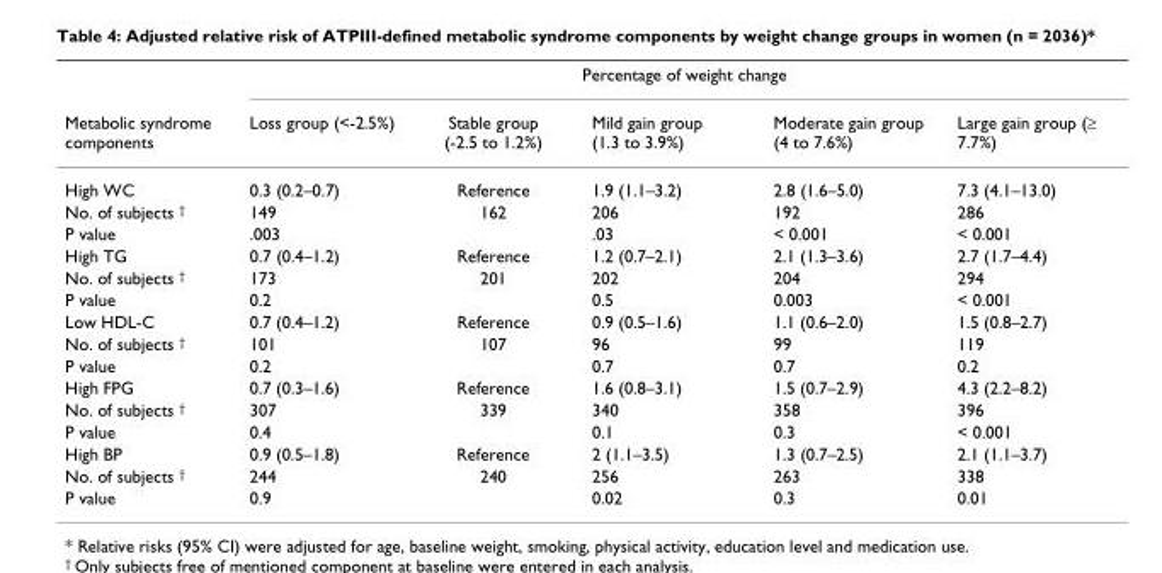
<table><thead><tr><td rowspan="2">Metabolic syndrome components</td><td colspan="5">Percentage of weight change</td></tr><tr><td>Loss group (&lt;-2.5%)</td><td>Stable group (-2.5 to 1.2%)</td><td>Mild gain group (1.3 to 3.9%)</td><td>Moderate gain group (4 to 7.6%)</td><td>Large gain group (≥ 7.7%)</td></tr></thead><tbody><tr><td>High WC</td><td>0.3 (0.2–0.7)</td><td>Reference</td><td>1.9 (1.1–3.2)</td><td>2.8 (1.6–5.0)</td><td>7.3 (4.1–13.0)</td></tr><tr><td>No. of subjects <sup>†</sup></td><td>149</td><td>162</td><td>206</td><td>192</td><td>286</td></tr><tr><td>P value</td><td>.003</td><td></td><td>.03</td><td>&lt; 0.001</td><td>&lt; 0.001</td></tr><tr><td>High TG</td><td>0.7 (0.4–1.2)</td><td>Reference</td><td>1.2 (0.7–2.1)</td><td>2.1 (1.3–3.6)</td><td>2.7 (1.7–4.4)</td></tr><tr><td>No. of subjects <sup>†</sup></td><td>173</td><td>201</td><td>202</td><td>204</td><td>294</td></tr><tr><td>P value</td><td>0.2</td><td></td><td>0.5</td><td>0.003</td><td>&lt; 0.001</td></tr><tr><td>Low HDL-C</td><td>0.7 (0.4–1.2)</td><td>Reference</td><td>0.9 (0.5–1.6)</td><td>1.1 (0.6–2.0)</td><td>1.5 (0.8–2.7)</td></tr><tr><td>No. of subjects <sup>†</sup></td><td>101</td><td>107</td><td>96</td><td>99</td><td>119</td></tr><tr><td>P value</td><td>0.2</td><td></td><td>0.7</td><td>0.7</td><td>0.2</td></tr><tr><td>High FPG</td><td>0.7 (0.3–1.6)</td><td>Reference</td><td>1.6 (0.8–3.1)</td><td>1.5 (0.7–2.9)</td><td>4.3 (2.2–8.2)</td></tr><tr><td>No. of subjects <sup>†</sup></td><td>307</td><td>339</td><td>340</td><td>358</td><td>396</td></tr><tr><td>P value</td><td>0.4</td><td></td><td>0.1</td><td>0.3</td><td>&lt; 0.001</td></tr><tr><td>High BP</td><td>0.9 (0.5–1.8)</td><td>Reference</td><td>2 (1.1–3.5)</td><td>1.3 (0.7–2.5)</td><td>2.1 (1.1–3.7)</td></tr><tr><td>No. of subjects <sup>†</sup></td><td>244</td><td>240</td><td>256</td><td>263</td><td>338</td></tr><tr><td>P value</td><td>0.9</td><td></td><td>0.02</td><td>0.3</td><td>0.01</td></tr></tbody></table>